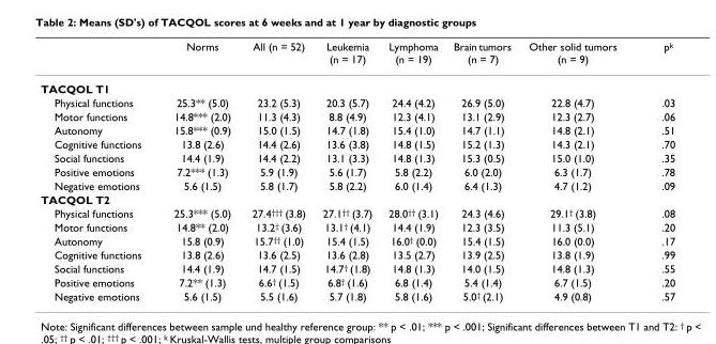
<table><thead><tr><td></td><td>Norms</td><td>All (n = 52)</td><td>Leukemia (n = 17)</td><td>Lymphoma (n = 19)</td><td>Brain tumors (n = 7)</td><td>Other solid tumors (n = 9)</td><td>p<sup>k</sup></td></tr></thead><tbody><tr><td colspan="8">TACQOL T1</td></tr><tr><td>Physical functions</td><td>25.3** (5.0)</td><td>23.2 (5.3)</td><td>20.3 (5.7)</td><td>24.4 (4.2)</td><td>26.9 (5.0)</td><td>22.8 (4.7)</td><td>.03</td></tr><tr><td>Motor functions</td><td>14.8*** (2.0)</td><td>11.3 (4.3)</td><td>8.8 (4.9)</td><td>12.3 (4.1)</td><td>13.1 (2.9)</td><td>12.3 (2.7)</td><td>.06</td></tr><tr><td>Autonomy</td><td>15.8*** (0.9)</td><td>15.0 (1.5)</td><td>14.7 (1.8)</td><td>15.4 (1.0)</td><td>14.7 (1.1)</td><td>14.8 (2.1)</td><td>.51</td></tr><tr><td>Cognitive functions</td><td>13.8 (2.6)</td><td>14.4 (2.6)</td><td>13.6 (3.8)</td><td>14.8 (1.5)</td><td>15.2 (1.3)</td><td>14.3 (2.1)</td><td>.70</td></tr><tr><td>Social functions</td><td>14.4 (1.9)</td><td>14.4 (2.2)</td><td>13.1 (3.3)</td><td>14.8 (1.3)</td><td>15.3 (0.5)</td><td>15.0 (1.0)</td><td>.35</td></tr><tr><td>Positive emotions</td><td>7.2*** (1.3)</td><td>5.9 (1.9)</td><td>5.6 (1.7)</td><td>5.8 (2.2)</td><td>6.0 (2.0)</td><td>6.3 (1.7)</td><td>.78</td></tr><tr><td>Negative emotions</td><td>5.6 (1.5)</td><td>5.8 (1.7)</td><td>5.8 (2.2)</td><td>6.0 (1.4)</td><td>6.4 (1.3)</td><td>4.7 (1.2)</td><td>.09</td></tr><tr><td colspan="8">TACQOL T2</td></tr><tr><td>Physical functions</td><td>25.3*** (5.0)</td><td>27.4<sup>†††</sup> (3.8)</td><td>27.1<sup>††</sup> (3.7)</td><td>28.0<sup>††</sup> (3.1)</td><td>24.3 (4.6)</td><td>29.1<sup>†</sup> (3.8)</td><td>.08</td></tr><tr><td>Motor functions</td><td>14.8** (2.0)</td><td>13.2<sup>†</sup> (3.6)</td><td>13.1<sup>†</sup> (4.1)</td><td>14.4 (1.9)</td><td>12.3 (3.5)</td><td>11.3 (5.1)</td><td>.20</td></tr><tr><td>Autonomy</td><td>15.8 (0.9)</td><td>15.7<sup>††</sup> (1.0)</td><td>15.4 (1.5)</td><td>16.0<sup>†</sup> (0.0)</td><td>15.4 (1.5)</td><td>16.0 (0.0)</td><td>.17</td></tr><tr><td>Cognitive functions</td><td>13.8 (2.6)</td><td>13.6 (2.5)</td><td>13.6 (2.8)</td><td>13.5 (2.7)</td><td>13.9 (2.5)</td><td>13.8 (1.9)</td><td>.99</td></tr><tr><td>Social functions</td><td>14.4 (1.9)</td><td>14.7 (1.5)</td><td>14.7<sup>†</sup> (1.8)</td><td>14.8 (1.3)</td><td>14.0 (1.5)</td><td>14.8 (1.3)</td><td>.55</td></tr><tr><td>Positive emotions</td><td>7.2** (1.3)</td><td>6.6<sup>†</sup> (1.5)</td><td>6.8<sup>†</sup> (1.6)</td><td>6.8 (1.4)</td><td>5.4 (1.4)</td><td>6.7 (1.5)</td><td>.20</td></tr><tr><td>Negative emotions</td><td>5.6 (1.5)</td><td>5.5 (1.6)</td><td>5.7 (1.8)</td><td>5.8 (1.6)</td><td>5.0<sup>†</sup> (2.1)</td><td>4.9 (0.8)</td><td>.57</td></tr></tbody></table>